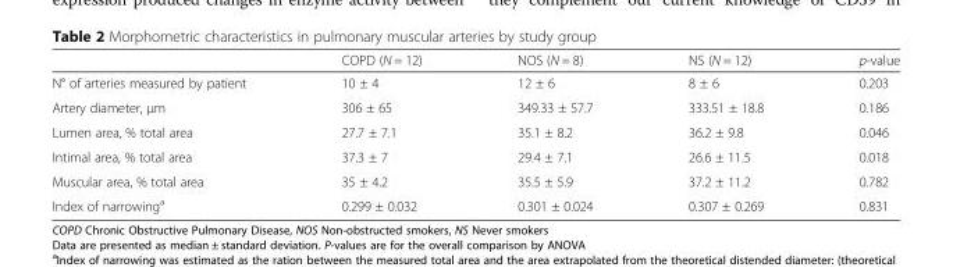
<table><thead><tr><td></td><td>COPD (N = 12)</td><td>NOS (N = 8)</td><td>NS (N = 12)</td><td>p-value</td></tr></thead><tbody><tr><td>N° of arteries measured by patient</td><td>10 ± 4</td><td>12 ± 6</td><td>8 ± 6</td><td>0.203</td></tr><tr><td>Artery diameter, μm</td><td>306 ± 65</td><td>349.33 ± 57.7</td><td>333.51 ± 18.8</td><td>0.186</td></tr><tr><td>Lumen area, % total area</td><td>27.7 ± 7.1</td><td>35.1 ± 8.2</td><td>36.2 ± 9.8</td><td>0.046</td></tr><tr><td>Intimal area, % total area</td><td>37.3 ± 7</td><td>29.4 ± 7.1</td><td>26.6 ± 11.5</td><td>0.018</td></tr><tr><td>Muscular area, % total area</td><td>35 ± 4.2</td><td>35.5 ± 5.9</td><td>37.2 ± 11.2</td><td>0.782</td></tr><tr><td>Index of narrowing<sup>a</sup></td><td>0.299 ± 0.032</td><td>0.301 ± 0.024</td><td>0.307 ± 0.269</td><td>0.831</td></tr></tbody></table>